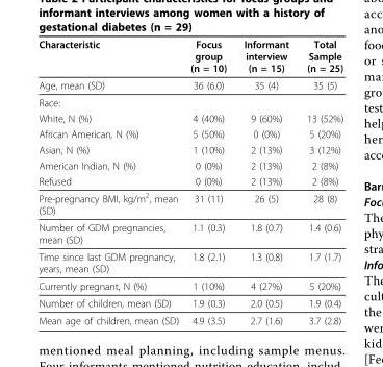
<table><thead><tr><td>Characteristic</td><td>Focus group (n = 10)</td><td>Informant interview (n = 15)</td><td>Total Sample (n = 25)</td></tr></thead><tbody><tr><td>Age, mean (SD)</td><td>36 (6.0)</td><td>35 (4)</td><td>35 (5)</td></tr><tr><td colspan="4">Race:</td></tr><tr><td>White, N (%)</td><td>4 (40%)</td><td>9 (60%)</td><td>13 (52%)</td></tr><tr><td>African American, N (%)</td><td>5 (50%)</td><td>0 (0%)</td><td>5 (20%)</td></tr><tr><td>Asian, N (%)</td><td>1 (10%)</td><td>2 (13%)</td><td>3 (12%)</td></tr><tr><td>American Indian, N (%)</td><td>0 (0%)</td><td>2 (13%)</td><td>2 (8%)</td></tr><tr><td>Refused</td><td>0 (0%)</td><td>2 (13%)</td><td>2 (8%)</td></tr><tr><td>Pre-pregnancy BMI, kg/m<sup>2</sup>, mean (SD)</td><td>31 (11)</td><td>26 (5)</td><td>28 (8)</td></tr><tr><td>Number of GDM pregnancies, mean (SD)</td><td>1.1 (0.3)</td><td>1.8 (0.7)</td><td>1.4 (0.6)</td></tr><tr><td>Time since last GDM pregnancy, years, mean (SD)</td><td>1.8 (2.1)</td><td>1.3 (0.8)</td><td>1.7 (1.7)</td></tr><tr><td>Currently pregnant, N (%)</td><td>1 (10%)</td><td>4 (27%)</td><td>5 (20%)</td></tr><tr><td>Number of children, mean (SD)</td><td>1.9 (0.3)</td><td>2.0 (0.5)</td><td>1.9 (0.4)</td></tr><tr><td>Mean age of children, mean (SD)</td><td>4.9 (3.5)</td><td>2.7 (1.6)</td><td>3.7 (2.8)</td></tr></tbody></table>